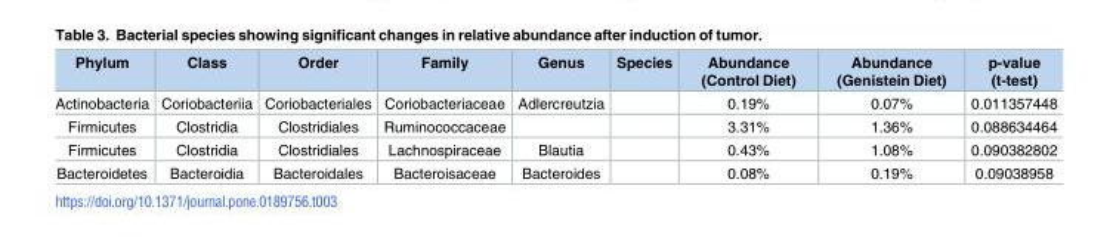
<table><thead><tr><td>Phylum</td><td>Class</td><td>Order</td><td>Family</td><td>Genus</td><td>Species</td><td>Abundance (Control Diet)</td><td>Abundance (Genistein Diet)</td><td>p-value (t-test)</td></tr></thead><tbody><tr><td>Actinobacteria</td><td>Coriobacteriia</td><td>Coriobacteriales</td><td>Coriobacteriaceae</td><td>Adlercreutzia</td><td></td><td>0.19%</td><td>0.07%</td><td>0.011357448</td></tr><tr><td>Firmicutes</td><td>Clostridia</td><td>Clostridiales</td><td>Ruminococcaceae</td><td></td><td></td><td>3.31%</td><td>1.36%</td><td>0.088634464</td></tr><tr><td>Firmicutes</td><td>Clostridia</td><td>Clostridiales</td><td>Lachnospiraceae</td><td>Blautia</td><td></td><td>0.43%</td><td>1.08%</td><td>0.090382802</td></tr><tr><td>Bacteroidetes</td><td>Bacteroidia</td><td>Bacteroidales</td><td>Bacteroisaceae</td><td>Bacteroides</td><td></td><td>0.08%</td><td>0.19%</td><td>0.09038958</td></tr></tbody></table>